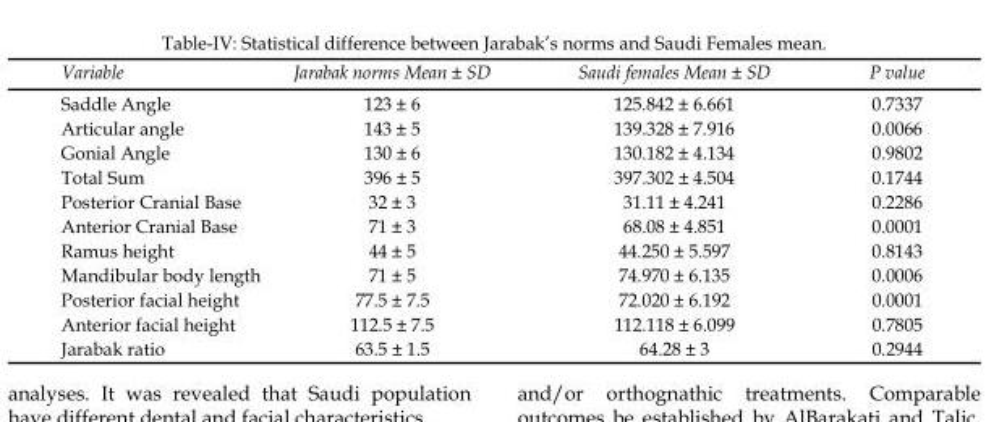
<table><thead><tr><td>Variable</td><td>Jarabak norms Mean ± SD</td><td>Saudi females Mean ± SD</td><td>P value</td></tr></thead><tbody><tr><td>Saddle Angle</td><td>123 ± 6</td><td>125.842 ± 6.661</td><td>0.7337</td></tr><tr><td>Articular angle</td><td>143 ± 5</td><td>139.328 ± 7.916</td><td>0.0066</td></tr><tr><td>Gonial Angle</td><td>130 ± 6</td><td>130.182 ± 4.134</td><td>0.9802</td></tr><tr><td>Total Sum</td><td>396 ± 5</td><td>397.302 ± 4.504</td><td>0.1744</td></tr><tr><td>Posterior Cranial Base</td><td>32 ± 3</td><td>31.11 ± 4.241</td><td>0.2286</td></tr><tr><td>Anterior Cranial Base</td><td>71 ± 3</td><td>68.08 ± 4.851</td><td>0.0001</td></tr><tr><td>Ramus height</td><td>44 ± 5</td><td>44.250 ± 5.597</td><td>0.8143</td></tr><tr><td>Mandibular body length</td><td>71 ± 5</td><td>74.970 ± 6.135</td><td>0.0006</td></tr><tr><td>Posterior facial height</td><td>77.5 ± 7.5</td><td>72.020 ± 6.192</td><td>0.0001</td></tr><tr><td>Anterior facial height</td><td>112.5 ± 7.5</td><td>112.118 ± 6.099</td><td>0.7805</td></tr><tr><td>Jarabak ratio</td><td>63.5 ± 1.5</td><td>64.28 ± 3</td><td>0.2944</td></tr></tbody></table>